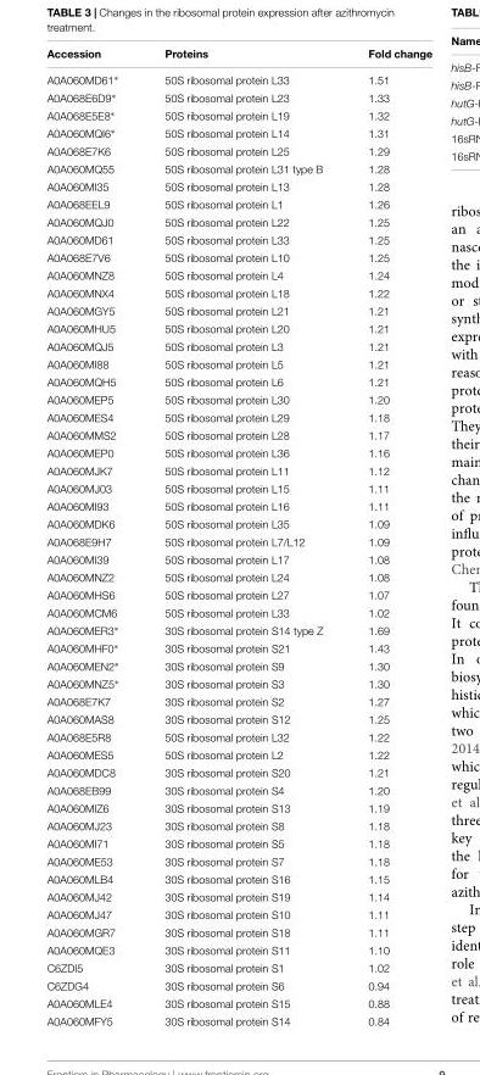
<table><thead><tr><td>Accession</td><td>Proteins</td><td>Fold change</td></tr></thead><tbody><tr><td>A0A060MD61∗</td><td>50S ribosomal protein L33</td><td>1.51</td></tr><tr><td>A0A068E6D9∗</td><td>50S ribosomal protein L23</td><td>1.33</td></tr><tr><td>A0A068E5E8∗</td><td>50S ribosomal protein L19</td><td>1.32</td></tr><tr><td>A0A060MQI6∗</td><td>50S ribosomal protein L14</td><td>1.31</td></tr><tr><td>A0A068E7K6</td><td>50S ribosomal protein L25</td><td>1.29</td></tr><tr><td>A0A060MQ55</td><td>50S ribosomal protein L31 type B</td><td>1.28</td></tr><tr><td>A0A060MI35</td><td>50S ribosomal protein L13</td><td>1.28</td></tr><tr><td>A0A068EEL9</td><td>50S ribosomal protein L1</td><td>1.26</td></tr><tr><td>A0A060MQJ0</td><td>50S ribosomal protein L22</td><td>1.25</td></tr><tr><td>A0A060MD61</td><td>50S ribosomal protein L33</td><td>1.25</td></tr><tr><td>A0A068E7V6</td><td>50S ribosomal protein L10</td><td>1.25</td></tr><tr><td>A0A060MNZ8</td><td>50S ribosomal protein L4</td><td>1.24</td></tr><tr><td>A0A060MNX4</td><td>50S ribosomal protein L18</td><td>1.22</td></tr><tr><td>A0A060MGY5</td><td>50S ribosomal protein L21</td><td>1.21</td></tr><tr><td>A0A060MHU5</td><td>50S ribosomal protein L20</td><td>1.21</td></tr><tr><td>A0A060MQJ5</td><td>50S ribosomal protein L3</td><td>1.21</td></tr><tr><td>A0A060MI88</td><td>50S ribosomal protein L5</td><td>1.21</td></tr><tr><td>A0A060MQH5</td><td>50S ribosomal protein L6</td><td>1.21</td></tr><tr><td>A0A060MEP5</td><td>50S ribosomal protein L30</td><td>1.20</td></tr><tr><td>A0A060MES4</td><td>50S ribosomal protein L29</td><td>1.18</td></tr><tr><td>A0A060MMS2</td><td>50S ribosomal protein L28</td><td>1.17</td></tr><tr><td>A0A060MEP0</td><td>50S ribosomal protein L36</td><td>1.16</td></tr><tr><td>A0A060MJK7</td><td>50S ribosomal protein L11</td><td>1.12</td></tr><tr><td>A0A060MJ03</td><td>50S ribosomal protein L15</td><td>1.11</td></tr><tr><td>A0A060MI93</td><td>50S ribosomal protein L16</td><td>1.11</td></tr><tr><td>A0A060MDK6</td><td>50S ribosomal protein L35</td><td>1.09</td></tr><tr><td>A0A068E9H7</td><td>50S ribosomal protein L7/L12</td><td>1.09</td></tr><tr><td>A0A060MI39</td><td>50S ribosomal protein L17</td><td>1.08</td></tr><tr><td>A0A060MNZ2</td><td>50S ribosomal protein L24</td><td>1.08</td></tr><tr><td>A0A060MHS6</td><td>50S ribosomal protein L27</td><td>1.07</td></tr><tr><td>A0A060MCM6</td><td>50S ribosomal protein L33</td><td>1.02</td></tr><tr><td>A0A060MER3∗</td><td>30S ribosomal protein S14 type Z</td><td>1.69</td></tr><tr><td>A0A060MHF0∗</td><td>30S ribosomal protein S21</td><td>1.43</td></tr><tr><td>A0A060MEN2∗</td><td>30S ribosomal protein S9</td><td>1.30</td></tr><tr><td>A0A060MNZ5∗</td><td>30S ribosomal protein S3</td><td>1.30</td></tr><tr><td>A0A068E7K7</td><td>30S ribosomal protein S2</td><td>1.27</td></tr><tr><td>A0A060MAS8</td><td>30S ribosomal protein S12</td><td>1.25</td></tr><tr><td>A0A068E5R8</td><td>50S ribosomal protein L32</td><td>1.22</td></tr><tr><td>A0A060MES5</td><td>50S ribosomal protein L2</td><td>1.22</td></tr><tr><td>A0A060MDC8</td><td>30S ribosomal protein S20</td><td>1.21</td></tr><tr><td>A0A068EB99</td><td>30S ribosomal protein S4</td><td>1.20</td></tr><tr><td>A0A060MIZ6</td><td>30S ribosomal protein S13</td><td>1.19</td></tr><tr><td>A0A060MJ23</td><td>30S ribosomal protein S8</td><td>1.18</td></tr><tr><td>A0A060MI71</td><td>30S ribosomal protein S5</td><td>1.18</td></tr><tr><td>A0A060ME53</td><td>30S ribosomal protein S7</td><td>1.18</td></tr><tr><td>A0A060MLB4</td><td>30S ribosomal protein S16</td><td>1.15</td></tr><tr><td>A0A060MJ42</td><td>30S ribosomal protein S19</td><td>1.14</td></tr><tr><td>A0A060MJ47</td><td>30S ribosomal protein S10</td><td>1.11</td></tr><tr><td>A0A060MGR7</td><td>30S ribosomal protein S18</td><td>1.11</td></tr><tr><td>A0A060MQE3</td><td>30S ribosomal protein S11</td><td>1.10</td></tr><tr><td>C6ZDI5</td><td>30S ribosomal protein S1</td><td>1.02</td></tr><tr><td>C6ZDG4</td><td>30S ribosomal protein S6</td><td>0.94</td></tr><tr><td>A0A060MLE4</td><td>30S ribosomal protein S15</td><td>0.88</td></tr><tr><td>A0A060MFY5</td><td>30S ribosomal protein S14</td><td>0.84</td></tr></tbody></table>